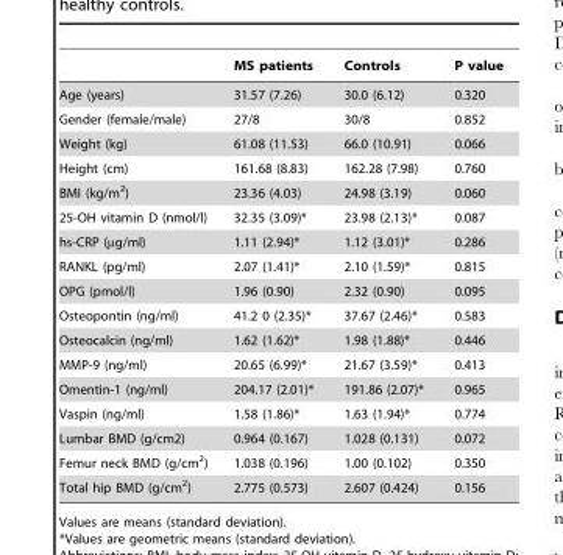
<table><thead><tr><td></td><td>MS patients</td><td>Controls</td><td>P value</td></tr></thead><tbody><tr><td>Age (years)</td><td>31.57 (7.26)</td><td>30.0 (6.12)</td><td>0.320</td></tr><tr><td>Gender (female/male)</td><td>27/8</td><td>30/8</td><td>0.852</td></tr><tr><td>Weight (kg)</td><td>61.08 (11.53)</td><td>66.0 (10.91)</td><td>0.066</td></tr><tr><td>Height (cm)</td><td>161.68 (8.83)</td><td>162.28 (7.98)</td><td>0.760</td></tr><tr><td>BMI (kg/m<sup>2</sup>)</td><td>23.36 (4.03)</td><td>24.98 (3.19)</td><td>0.060</td></tr><tr><td>25-OH vitamin D (nmol/l)</td><td>32.35 (3.09)*</td><td>23.98 (2.13)*</td><td>0.087</td></tr><tr><td>hs-CRP (µg/ml)</td><td>1.11 (2.94)*</td><td>1.12 (3.01)*</td><td>0.286</td></tr><tr><td>RANKL (pg/ml)</td><td>2.07 (1.41)*</td><td>2.10 (1.59)*</td><td>0.815</td></tr><tr><td>OPG (pmol/l)</td><td>1.96 (0.90)</td><td>2.32 (0.90)</td><td>0.095</td></tr><tr><td>Osteopontin (ng/ml)</td><td>41.2 0 (2.35)*</td><td>37.67 (2.46)*</td><td>0.583</td></tr><tr><td>Osteocalcin (ng/ml)</td><td>1.62 (1.62)*</td><td>1.98 (1.88)*</td><td>0.446</td></tr><tr><td>MMP-9 (ng/ml)</td><td>20.65 (6.99)*</td><td>21.67 (3.59)*</td><td>0.413</td></tr><tr><td>Omentin-1 (ng/ml)</td><td>204.17 (2.01)*</td><td>191.86 (2.07)*</td><td>0.965</td></tr><tr><td>Vaspin (ng/ml)</td><td>1.58 (1.86)*</td><td>1.63 (1.94)*</td><td>0.774</td></tr><tr><td>Lumbar BMD (g/cm2)</td><td>0.964 (0.167)</td><td>1.028 (0.131)</td><td>0.072</td></tr><tr><td>Femur neck BMD (g/cm<sup>2</sup>)</td><td>1.038 (0.196)</td><td>1.00 (0.102)</td><td>0.350</td></tr><tr><td>Total hip BMD (g/cm<sup>2</sup>)</td><td>2.775 (0.573)</td><td>2.607 (0.424)</td><td>0.156</td></tr></tbody></table>